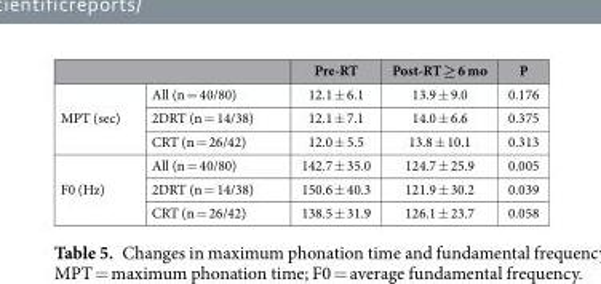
<table><thead><tr><td></td><td></td><td>Pre-RT</td><td>Post-RT ≥ 6 mo</td><td>P</td></tr></thead><tbody><tr><td rowspan="3">MPT (sec)</td><td>All (n = 40/80)</td><td>12.1 ± 6.1</td><td>13.9 ± 9.0</td><td>0.176</td></tr><tr><td>2DRT (n = 14/38)</td><td>12.1 ± 7.1</td><td>14.0 ± 6.6</td><td>0.375</td></tr><tr><td>CRT (n = 26/42)</td><td>12.0 ± 5.5</td><td>13.8 ± 10.1</td><td>0.313</td></tr><tr><td rowspan="3">F0 (Hz)</td><td>All (n = 40/80)</td><td>142.7 ± 35.0</td><td>124.7 ± 25.9</td><td>0.005</td></tr><tr><td>2DRT (n = 14/38)</td><td>150.6 ± 40.3</td><td>121.9 ± 30.2</td><td>0.039</td></tr><tr><td>CRT (n = 26/42)</td><td>138.5 ± 31.9</td><td>126.1 ± 23.7</td><td>0.058</td></tr></tbody></table>